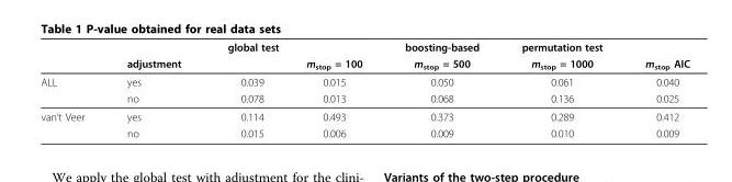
<table><thead><tr><td rowspan="2"></td><td colspan="3">global test</td><td rowspan="2">boosting-based m<sub>stop</sub> = 500</td><td rowspan="2">permutation test m<sub>stop</sub> = 1000</td><td rowspan="2">m<sub>stop</sub> AIC</td></tr><tr><td>adjustment</td><td></td><td>m<sub>stop</sub> = 100</td></tr></thead><tbody><tr><td rowspan="2">ALL</td><td>yes</td><td>0.039</td><td>0.015</td><td>0.050</td><td>0.061</td><td>0.040</td></tr><tr><td>no</td><td>0.078</td><td>0.013</td><td>0.068</td><td>0.136</td><td>0.025</td></tr><tr><td rowspan="2">van’t Veer</td><td>yes</td><td>0.114</td><td>0.493</td><td>0.373</td><td>0.289</td><td>0.412</td></tr><tr><td>no</td><td>0.015</td><td>0.006</td><td>0.009</td><td>0.010</td><td>0.009</td></tr></tbody></table>